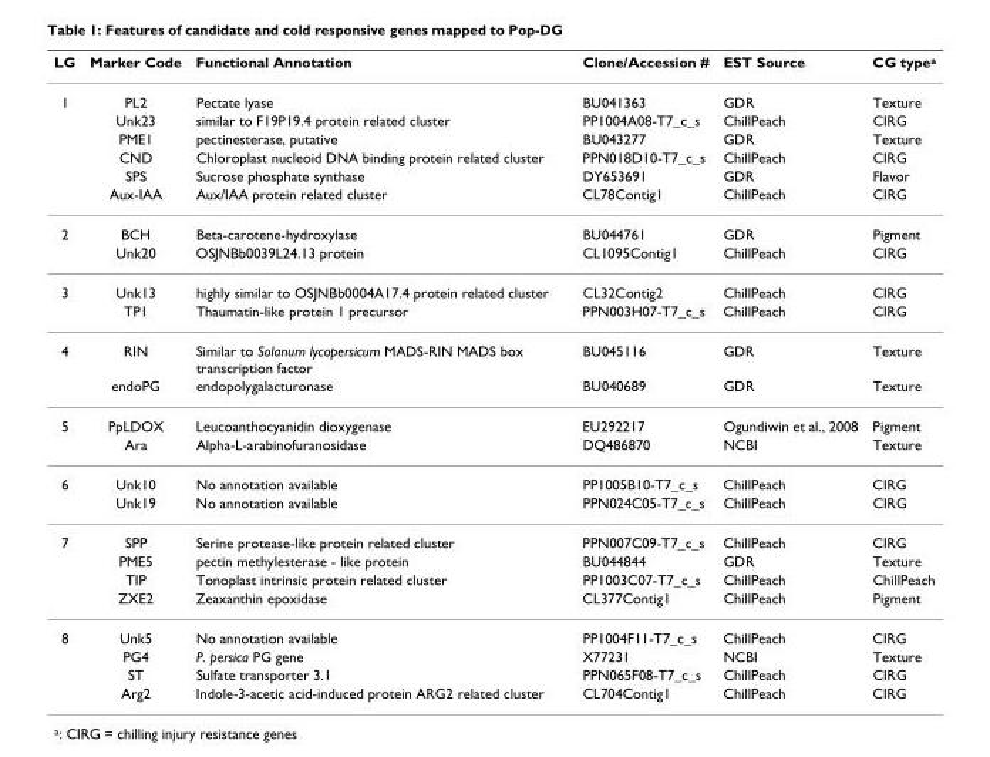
<table><thead><tr><td>LG</td><td>Marker Code</td><td>Functional Annotation</td><td>Clone/Accession #</td><td>EST Source</td><td>CG type<sup>a</sup></td></tr></thead><tbody><tr><td rowspan="6">1</td><td>PL2</td><td>Pectate lyase</td><td>BU041363</td><td>GDR</td><td>Texture</td></tr><tr><td>Unk23</td><td>similar to F19P19.4 protein related cluster</td><td>PP1004A08-T7_c_s</td><td>ChillPeach</td><td>CIRG</td></tr><tr><td>PME1</td><td>pectinesterase, putative</td><td>BU043277</td><td>GDR</td><td>Texture</td></tr><tr><td>CND</td><td>Chloroplast nucleoid DNA binding protein related cluster</td><td>PPN018D10-T7_c_s</td><td>ChillPeach</td><td>CIRG</td></tr><tr><td>SPS</td><td>Sucrose phosphate synthase</td><td>DY653691</td><td>GDR</td><td>Flavor</td></tr><tr><td>Aux-IAA</td><td>Aux/IAA protein related cluster</td><td>CL78Contig1</td><td>ChillPeach</td><td>CIRG</td></tr><tr><td rowspan="2">2</td><td>BCH</td><td>Beta-carotene-hydroxylase</td><td>BU044761</td><td>GDR</td><td>Pigment</td></tr><tr><td>Unk20</td><td>OSJNBb0039L24.13 protein</td><td>CL1095Contig1</td><td>ChillPeach</td><td>CIRG</td></tr><tr><td rowspan="2">3</td><td>Unk13</td><td>highly similar to OSJNBb0004A17.4 protein related cluster</td><td>CL32Contig2</td><td>ChillPeach</td><td>CIRG</td></tr><tr><td>TP1</td><td>Thaumatin-like protein 1 precursor</td><td>PPN003H07-T7_c_s</td><td>ChillPeach</td><td>CIRG</td></tr><tr><td rowspan="2">4</td><td>RIN</td><td>Similar to Solanum lycopersicum MADS-RIN MADS box transcription factor</td><td>BU045116</td><td>GDR</td><td>Texture</td></tr><tr><td>endoPG</td><td>endopolygalacturonase</td><td>BU040689</td><td>GDR</td><td>Texture</td></tr><tr><td rowspan="2">5</td><td>PpLDOX</td><td>Leucoanthocyanidin dioxygenase</td><td>EU292217</td><td>Ogundiwin et al., 2008</td><td>Pigment</td></tr><tr><td>Ara</td><td>Alpha-L-arabinofuranosidase</td><td>DQ486870</td><td>NCBI</td><td>Texture</td></tr><tr><td rowspan="2">6</td><td>Unk10</td><td>No annotation available</td><td>PP1005B10-T7_c_s</td><td>ChillPeach</td><td>CIRG</td></tr><tr><td>Unk19</td><td>No annotation available</td><td>PPN024C05-T7_c_s</td><td>ChillPeach</td><td>CIRG</td></tr><tr><td rowspan="4">7</td><td>SPP</td><td>Serine protease-like protein related cluster</td><td>PPN007C09-T7_c_s</td><td>ChillPeach</td><td>CIRG</td></tr><tr><td>PME5</td><td>pectin methylesterase - like protein</td><td>BU044844</td><td>GDR</td><td>Texture</td></tr><tr><td>TIP</td><td>Tonoplast intrinsic protein related cluster</td><td>PP1003C07-T7_c_s</td><td>ChillPeach</td><td>ChillPeach</td></tr><tr><td>ZXE2</td><td>Zeaxanthin epoxidase</td><td>CL377Contig1</td><td>ChillPeach</td><td>Pigment</td></tr><tr><td rowspan="4">8</td><td>Unk5</td><td>No annotation available</td><td>PP1004F11-T7_c_s</td><td>ChillPeach</td><td>CIRG</td></tr><tr><td>PG4</td><td>P. persica PG gene</td><td>X77231</td><td>NCBI</td><td>Texture</td></tr><tr><td>ST</td><td>Sulfate transporter 3.1</td><td>PPN065F08-T7_c_s</td><td>ChillPeach</td><td>CIRG</td></tr><tr><td>Arg2</td><td>Indole-3-acetic acid-induced protein ARG2 related cluster</td><td>CL704Contig1</td><td>ChillPeach</td><td>CIRG</td></tr></tbody></table>